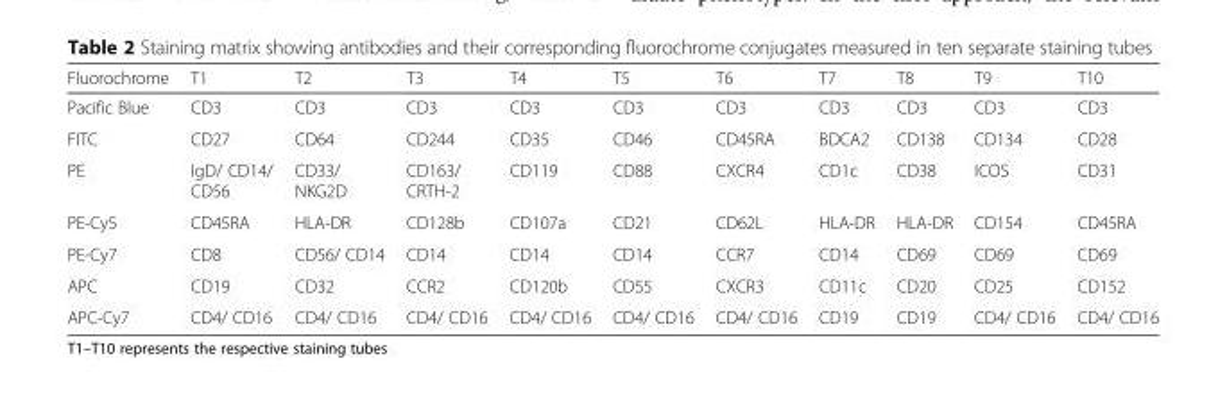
<table><thead><tr><td>Fluorochrome</td><td>T1</td><td>T2</td><td>T3</td><td>T4</td><td>T5</td><td>T6</td><td>T7</td><td>T8</td><td>T9</td><td>T10</td></tr></thead><tbody><tr><td>Pacific Blue</td><td>CD3</td><td>CD3</td><td>CD3</td><td>CD3</td><td>CD3</td><td>CD3</td><td>CD3</td><td>CD3</td><td>CD3</td><td>CD3</td></tr><tr><td>FITC</td><td>CD27</td><td>CD64</td><td>CD244</td><td>CD35</td><td>CD46</td><td>CD45RA</td><td>BDCA2</td><td>CD138</td><td>CD134</td><td>CD28</td></tr><tr><td>PE</td><td>IgD/ CD14/ CD56</td><td>CD33/ NKG2D</td><td>CD163/ CRTH-2</td><td>CD119</td><td>CD88</td><td>CXCR4</td><td>CD1c</td><td>CD38</td><td>ICOS</td><td>CD31</td></tr><tr><td>PE-Cy5</td><td>CD45RA</td><td>HLA-DR</td><td>CD128b</td><td>CD107a</td><td>CD21</td><td>CD62L</td><td>HLA-DR</td><td>HLA-DR</td><td>CD154</td><td>CD45RA</td></tr><tr><td>PE-Cy7</td><td>CD8</td><td>CD56/ CD14</td><td>CD14</td><td>CD14</td><td>CD14</td><td>CCR7</td><td>CD14</td><td>CD69</td><td>CD69</td><td>CD69</td></tr><tr><td>APC</td><td>CD19</td><td>CD32</td><td>CCR2</td><td>CD120b</td><td>CD55</td><td>CXCR3</td><td>CD11c</td><td>CD20</td><td>CD25</td><td>CD152</td></tr><tr><td>APC-Cy7</td><td>CD4/ CD16</td><td>CD4/ CD16</td><td>CD4/ CD16</td><td>CD4/ CD16</td><td>CD4/ CD16</td><td>CD4/ CD16</td><td>CD19</td><td>CD19</td><td>CD4/ CD16</td><td>CD4/ CD16</td></tr></tbody></table>